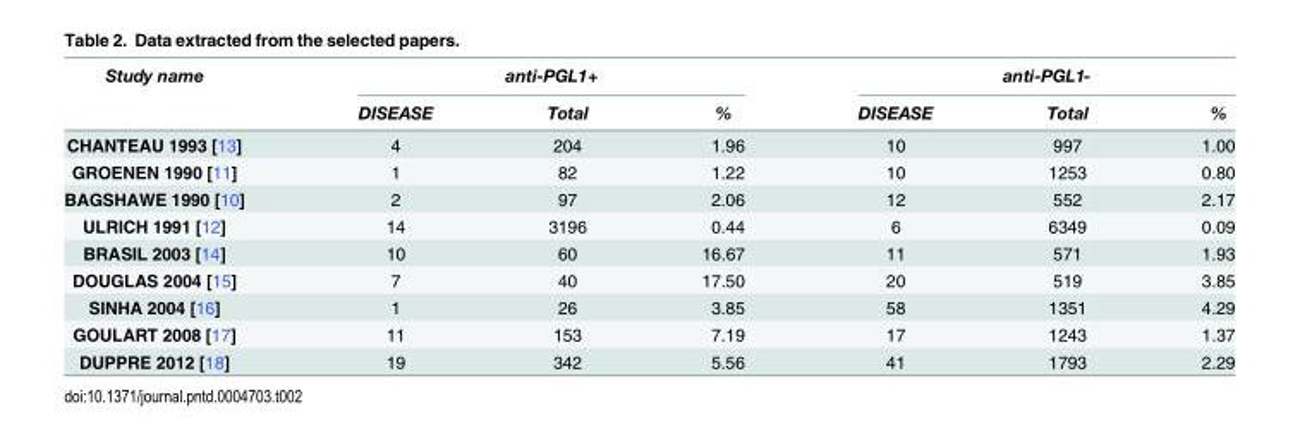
<table><thead><tr><td rowspan="2">Study name</td><td colspan="3">anti-PGL1+</td><td colspan="3">anti-PGL1-</td></tr><tr><td>DISEASE</td><td>Total</td><td>%</td><td>DISEASE</td><td>Total</td><td>%</td></tr></thead><tbody><tr><td>CHANTEAU 1993 [13]</td><td>4</td><td>204</td><td>1.96</td><td>10</td><td>997</td><td>1.00</td></tr><tr><td>GROENEN 1990 [11]</td><td>1</td><td>82</td><td>1.22</td><td>10</td><td>1253</td><td>0.80</td></tr><tr><td>BAGSHAWE 1990 [10]</td><td>2</td><td>97</td><td>2.06</td><td>12</td><td>552</td><td>2.17</td></tr><tr><td>ULRICH 1991 [12]</td><td>14</td><td>3196</td><td>0.44</td><td>6</td><td>6349</td><td>0.09</td></tr><tr><td>BRASIL 2003 [14]</td><td>10</td><td>60</td><td>16.67</td><td>11</td><td>571</td><td>1.93</td></tr><tr><td>DOUGLAS 2004 [15]</td><td>7</td><td>40</td><td>17.50</td><td>20</td><td>519</td><td>3.85</td></tr><tr><td>SINHA 2004 [16]</td><td>1</td><td>26</td><td>3.85</td><td>58</td><td>1351</td><td>4.29</td></tr><tr><td>GOULART 2008 [17]</td><td>11</td><td>153</td><td>7.19</td><td>17</td><td>1243</td><td>1.37</td></tr><tr><td>DUPPRE 2012 [18]</td><td>19</td><td>342</td><td>5.56</td><td>41</td><td>1793</td><td>2.29</td></tr></tbody></table>